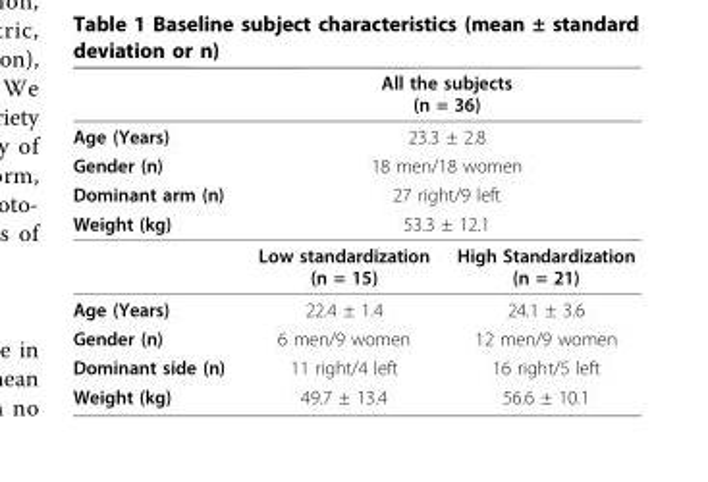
<table><thead><tr><td></td><td colspan="2">All the subjects (n = 36)</td></tr></thead><tbody><tr><td>Age (Years)</td><td colspan="2">23.3 ± 2.8</td></tr><tr><td>Gender (n)</td><td colspan="2">18 men/18 women</td></tr><tr><td>Dominant arm (n)</td><td colspan="2">27 right/9 left</td></tr><tr><td rowspan="2">Weight (kg)</td><td colspan="2">53.3 ± 12.1</td></tr><tr><td>Low standardization (n = 15)</td><td>High Standardization (n = 21)</td></tr><tr><td>Age (Years)</td><td>22.4 ± 1.4</td><td>24.1 ± 3.6</td></tr><tr><td>Gender (n)</td><td>6 men/9 women</td><td>12 men/9 women</td></tr><tr><td>Dominant side (n)</td><td>11 right/4 left</td><td>16 right/5 left</td></tr><tr><td>Weight (kg)</td><td>49.7 ± 13.4</td><td>56.6 ± 10.1</td></tr></tbody></table>